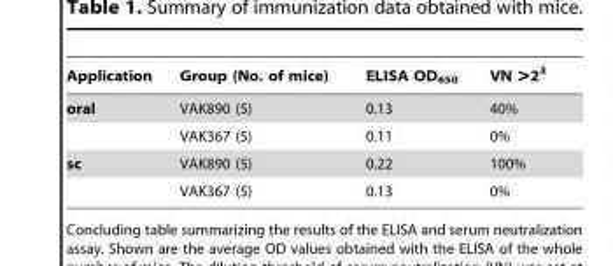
<table><thead><tr><td>Application</td><td>Group (No. of mice)</td><td>ELISA OD<sub>650</sub></td><td>VN &gt;2<sup>3</sup></td></tr></thead><tbody><tr><td rowspan="2">oral</td><td>VAK890 (5)</td><td>0.13</td><td>40%</td></tr><tr><td>VAK367 (5)</td><td>0.11</td><td>0%</td></tr><tr><td rowspan="2">sc</td><td>VAK890 (5)</td><td>0.22</td><td>100%</td></tr><tr><td>VAK367 (5)</td><td>0.13</td><td>0%</td></tr></tbody></table>